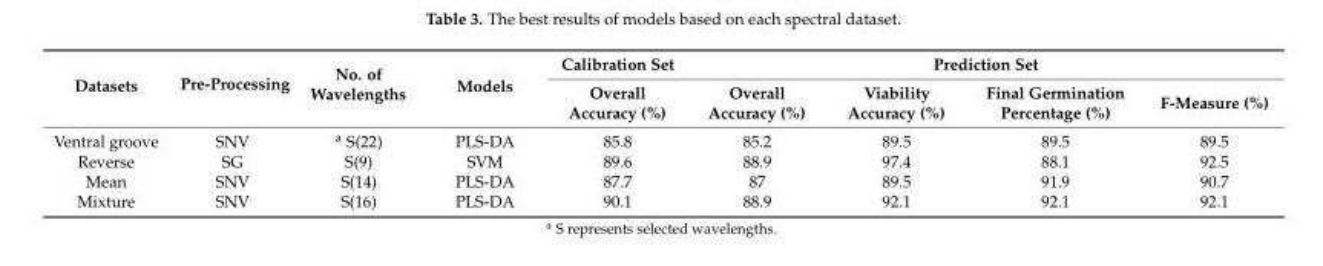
<table><thead><tr><td rowspan="2">Datasets</td><td rowspan="2">Pre-Processing</td><td rowspan="2">No. of Wavelengths</td><td rowspan="2">Models</td><td rowspan="2">Calibration Set Overall Accuracy (%)</td><td colspan="4">Prediction Set</td></tr><tr><td>Overall Accuracy (%)</td><td>Viability Accuracy (%)</td><td>Final Germination Percentage (%)</td><td>F-Measure (%)</td></tr></thead><tbody><tr><td>Ventral groove</td><td>SNV</td><td><sup>a</sup> S(22)</td><td>PLS-DA</td><td>85.8</td><td>85.2</td><td>89.5</td><td>89.5</td><td>89.5</td></tr><tr><td>Reverse</td><td>SG</td><td>S(9)</td><td>SVM</td><td>89.6</td><td>88.9</td><td>97.4</td><td>88.1</td><td>92.5</td></tr><tr><td>Mean</td><td>SNV</td><td>S(14)</td><td>PLS-DA</td><td>87.7</td><td>87</td><td>89.5</td><td>91.9</td><td>90.7</td></tr><tr><td>Mixture</td><td>SNV</td><td>S(16)</td><td>PLS-DA</td><td>90.1</td><td>88.9</td><td>92.1</td><td>92.1</td><td>92.1</td></tr></tbody></table>